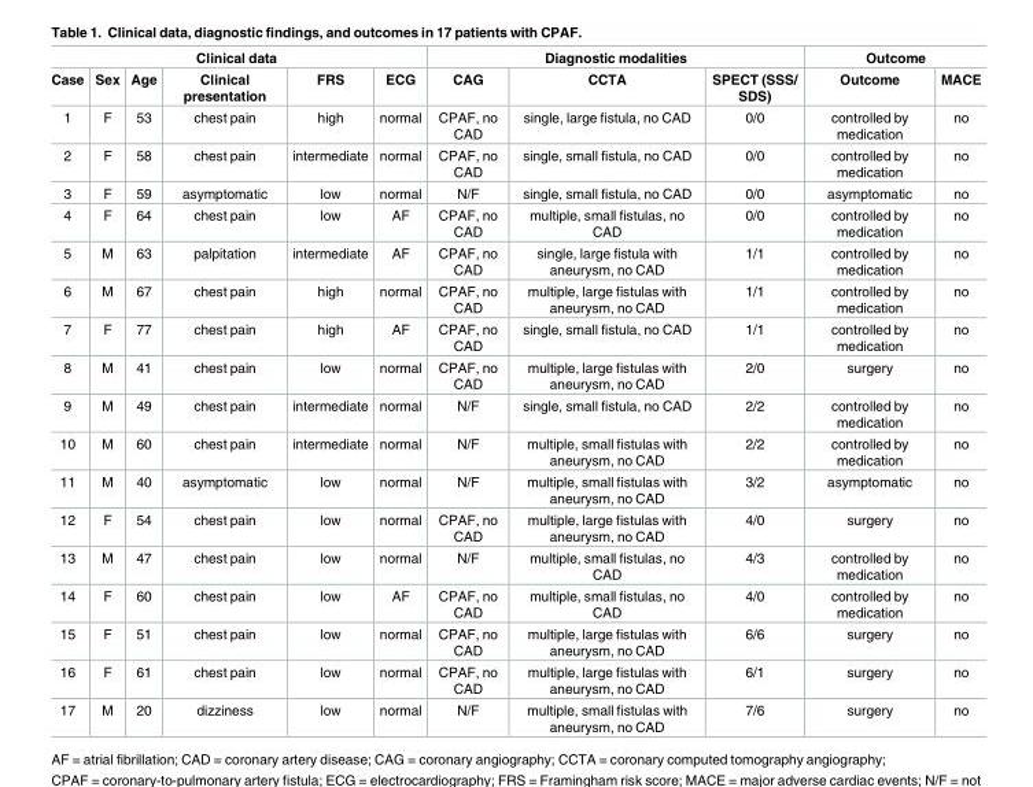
<table><thead><tr><td colspan="6">Clinical data</td><td colspan="3">Diagnostic modalities</td><td colspan="2">Outcome</td></tr><tr><td>Case</td><td>Sex</td><td>Age</td><td>Clinical presentation</td><td>FRS</td><td>ECG</td><td>CAG</td><td>CCTA</td><td>SPECT (SSS/ SDS)</td><td>Outcome</td><td>MACE</td></tr></thead><tbody><tr><td>1</td><td>F</td><td>53</td><td>chest pain</td><td>high</td><td>normal</td><td>CPAF, no CAD</td><td>single, large fistula, no CAD</td><td>0/0</td><td>controlled by medication</td><td>no</td></tr><tr><td>2</td><td>F</td><td>58</td><td>chest pain</td><td>intermediate</td><td>normal</td><td>CPAF, no CAD</td><td>single, small fistula, no CAD</td><td>0/0</td><td>controlled by medication</td><td>no</td></tr><tr><td>3</td><td>F</td><td>59</td><td>asymptomatic</td><td>low</td><td>normal</td><td>N/F</td><td>single, small fistula, no CAD</td><td>0/0</td><td>asymptomatic</td><td>no</td></tr><tr><td>4</td><td>F</td><td>64</td><td>chest pain</td><td>low</td><td>AF</td><td>CPAF, no CAD</td><td>multiple, small fistulas, no CAD</td><td>0/0</td><td>controlled by medication</td><td>no</td></tr><tr><td>5</td><td>M</td><td>63</td><td>palpitation</td><td>intermediate</td><td>AF</td><td>CPAF, no CAD</td><td>single, large fistula with aneurysm, no CAD</td><td>1/1</td><td>controlled by medication</td><td>no</td></tr><tr><td>6</td><td>M</td><td>67</td><td>chest pain</td><td>high</td><td>normal</td><td>CPAF, no CAD</td><td>multiple, large fistulas with aneurysm, no CAD</td><td>1/1</td><td>controlled by medication</td><td>no</td></tr><tr><td>7</td><td>F</td><td>77</td><td>chest pain</td><td>high</td><td>AF</td><td>CPAF, no CAD</td><td>single, small fistula, no CAD</td><td>1/1</td><td>controlled by medication</td><td>no</td></tr><tr><td>8</td><td>M</td><td>41</td><td>chest pain</td><td>low</td><td>normal</td><td>CPAF, no CAD</td><td>multiple, large fistulas with aneurysm, no CAD</td><td>2/0</td><td>surgery</td><td>no</td></tr><tr><td>9</td><td>M</td><td>49</td><td>chest pain</td><td>intermediate</td><td>normal</td><td>N/F</td><td>single, small fistula, no CAD</td><td>2/2</td><td>controlled by medication</td><td>no</td></tr><tr><td>10</td><td>M</td><td>60</td><td>chest pain</td><td>intermediate</td><td>normal</td><td>N/F</td><td>multiple, small fistulas with aneurysm, no CAD</td><td>2/2</td><td>controlled by medication</td><td>no</td></tr><tr><td>11</td><td>M</td><td>40</td><td>asymptomatic</td><td>low</td><td>normal</td><td>N/F</td><td>multiple, small fistulas with aneurysm, no CAD</td><td>3/2</td><td>asymptomatic</td><td>no</td></tr><tr><td>12</td><td>F</td><td>54</td><td>chest pain</td><td>low</td><td>normal</td><td>CPAF, no CAD</td><td>multiple, large fistulas with aneurysm, no CAD</td><td>4/0</td><td>surgery</td><td>no</td></tr><tr><td>13</td><td>M</td><td>47</td><td>chest pain</td><td>low</td><td>normal</td><td>N/F</td><td>multiple, small fistulas, no CAD</td><td>4/3</td><td>controlled by medication</td><td>no</td></tr><tr><td>14</td><td>F</td><td>60</td><td>chest pain</td><td>low</td><td>AF</td><td>CPAF, no CAD</td><td>multiple, small fistulas, no CAD</td><td>4/0</td><td>controlled by medication</td><td>no</td></tr><tr><td>15</td><td>F</td><td>51</td><td>chest pain</td><td>low</td><td>normal</td><td>CPAF, no CAD</td><td>multiple, large fistulas with aneurysm, no CAD</td><td>6/6</td><td>surgery</td><td>no</td></tr><tr><td>16</td><td>F</td><td>61</td><td>chest pain</td><td>low</td><td>normal</td><td>CPAF, no CAD</td><td>multiple, large fistulas with aneurysm, no CAD</td><td>6/1</td><td>surgery</td><td>no</td></tr><tr><td>17</td><td>M</td><td>20</td><td>dizziness</td><td>low</td><td>normal</td><td>N/F</td><td>multiple, small fistulas with aneurysm, no CAD</td><td>7/6</td><td>surgery</td><td>no</td></tr></tbody></table>